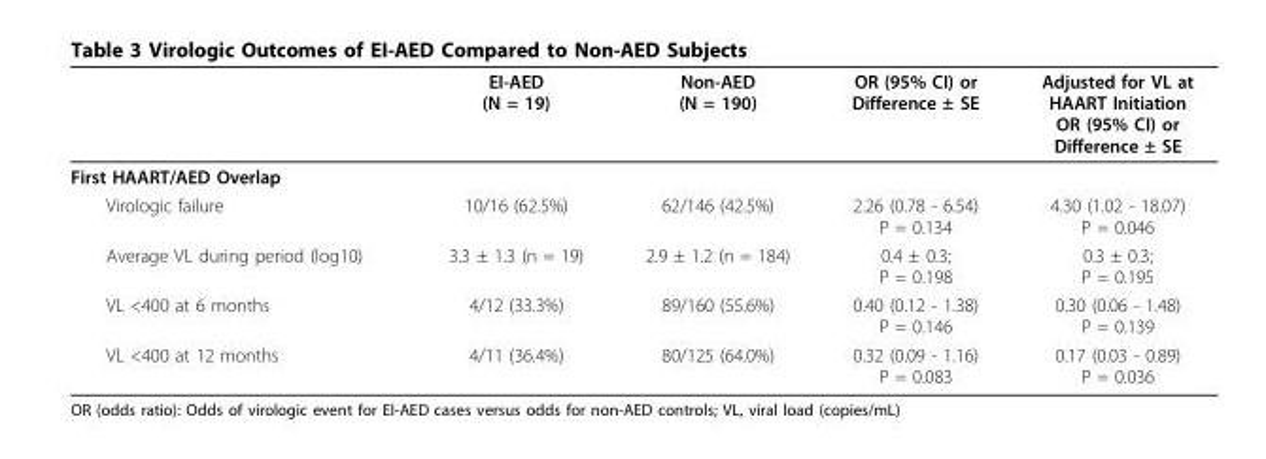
<table><thead><tr><td></td><td>EI-AED (N = 19)</td><td>Non-AED (N = 190)</td><td>OR (95% CI) or Difference ± SE</td><td>Adjusted for VL at HAART Initiation OR (95% CI) or Difference ± SE</td></tr></thead><tbody><tr><td colspan="5">First HAART/AED Overlap</td></tr><tr><td>Virologic failure</td><td>10/16 (62.5%)</td><td>62/146 (42.5%)</td><td>2.26 (0.78 - 6.54) P = 0.134</td><td>4.30 (1.02 - 18.07) P = 0.046</td></tr><tr><td>Average VL during period (log10)</td><td>3.3 ± 1.3 (n = 19)</td><td>2.9 ± 1.2 (n = 184)</td><td>0.4 ± 0.3; P = 0.198</td><td>0.3 ± 0.3; P = 0.195</td></tr><tr><td>VL &lt;400 at 6 months</td><td>4/12 (33.3%)</td><td>89/160 (55.6%)</td><td>0.40 (0.12 - 1.38) P = 0.146</td><td>0.30 (0.06 - 1.48) P = 0.139</td></tr><tr><td>VL &lt;400 at 12 months</td><td>4/11 (36.4%)</td><td>80/125 (64.0%)</td><td>0.32 (0.09 - 1.16) P = 0.083</td><td>0.17 (0.03 - 0.89) P = 0.036</td></tr></tbody></table>